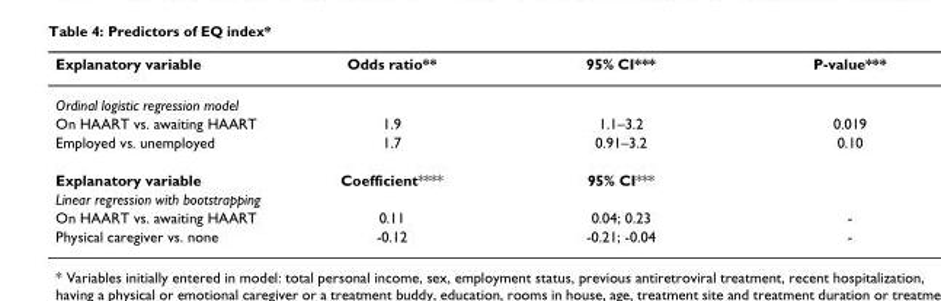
<table><thead><tr><td>Explanatory variable</td><td>Odds ratio**</td><td>95% CI***</td><td>P-value***</td></tr></thead><tbody><tr><td colspan="4">Ordinal logistic regression model</td></tr><tr><td>On HAART vs. awaiting HAART</td><td>1.9</td><td>1.1–3.2</td><td>0.019</td></tr><tr><td>Employed vs. unemployed</td><td>1.7</td><td>0.91–3.2</td><td>0.10</td></tr><tr><td>Explanatory variable</td><td>Coefficient****</td><td>95% CI***</td><td></td></tr><tr><td colspan="4">Linear regression with bootstrapping</td></tr><tr><td>On HAART vs. awaiting HAART</td><td>0.11</td><td>0.04; 0.23</td><td>-</td></tr><tr><td>Physical caregiver vs. none</td><td>-0.12</td><td>-0.21; -0.04</td><td>-</td></tr></tbody></table>